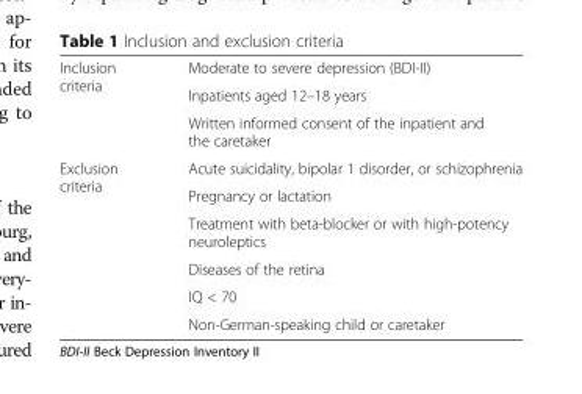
<table><tbody><tr><td rowspan="3">Inclusion criteria</td><td>Moderate to severe depression (BDI-II)</td></tr><tr><td>Inpatients aged 12–18 years</td></tr><tr><td>Written informed consent of the inpatient and the caretaker</td></tr><tr><td rowspan="6">Exclusion criteria</td><td>Acute suicidality, bipolar 1 disorder, or schizophrenia</td></tr><tr><td>Pregnancy or lactation</td></tr><tr><td>Treatment with beta-blocker or with high-potency neuroleptics</td></tr><tr><td>Diseases of the retina</td></tr><tr><td>IQ &lt; 70</td></tr><tr><td>Non-German-speaking child or caretaker</td></tr></tbody></table>